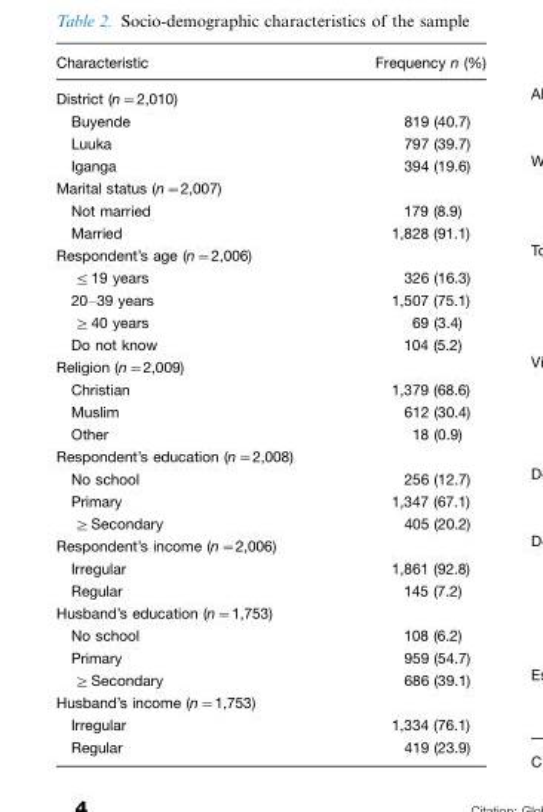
<table><thead><tr><td>Characteristic</td><td>Frequency n (%)</td></tr></thead><tbody><tr><td colspan="2">District (n=2,010)</td></tr><tr><td>Buyende</td><td>819 (40.7)</td></tr><tr><td>Luuka</td><td>797 (39.7)</td></tr><tr><td>Iganga</td><td>394 (19.6)</td></tr><tr><td colspan="2">Marital status (n=2,007)</td></tr><tr><td>Not married</td><td>179 (8.9)</td></tr><tr><td>Married</td><td>1,828 (91.1)</td></tr><tr><td colspan="2">Respondent’s age (n=2,006)</td></tr><tr><td>≤19 years</td><td>326 (16.3)</td></tr><tr><td>20–39 years</td><td>1,507 (75.1)</td></tr><tr><td>≥40 years</td><td>69 (3.4)</td></tr><tr><td>Do not know</td><td>104 (5.2)</td></tr><tr><td colspan="2">Religion (n=2,009)</td></tr><tr><td>Christian</td><td>1,379 (68.6)</td></tr><tr><td>Muslim</td><td>612 (30.4)</td></tr><tr><td>Other</td><td>18 (0.9)</td></tr><tr><td colspan="2">Respondent’s education (n=2,008)</td></tr><tr><td>No school</td><td>256 (12.7)</td></tr><tr><td>Primary</td><td>1,347 (67.1)</td></tr><tr><td>≥Secondary</td><td>405 (20.2)</td></tr><tr><td colspan="2">Respondent’s income (n=2,006)</td></tr><tr><td>Irregular</td><td>1,861 (92.8)</td></tr><tr><td>Regular</td><td>145 (7.2)</td></tr><tr><td colspan="2">Husband’s education (n=1,753)</td></tr><tr><td>No school</td><td>108 (6.2)</td></tr><tr><td>Primary</td><td>959 (54.7)</td></tr><tr><td>≥Secondary</td><td>686 (39.1)</td></tr><tr><td colspan="2">Husband’s income (n=1,753)</td></tr><tr><td>Irregular</td><td>1,334 (76.1)</td></tr><tr><td>Regular</td><td>419 (23.9)</td></tr></tbody></table>